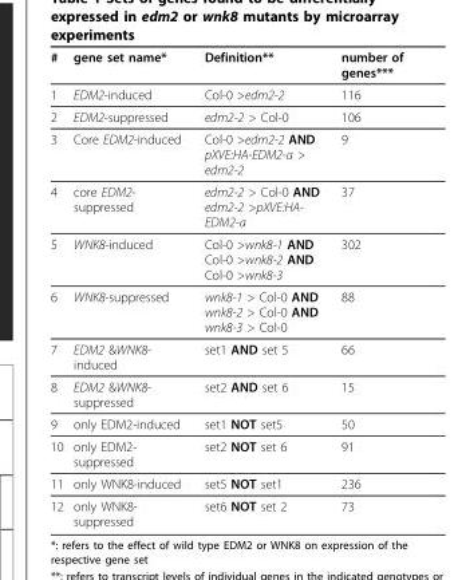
<table><thead><tr><td>#</td><td>gene set name*</td><td>Definition**</td><td>number of genes***</td></tr></thead><tbody><tr><td>1</td><td>EDM2-induced</td><td>Col-0 &gt;edm2-2</td><td>116</td></tr><tr><td>2</td><td>EDM2-suppressed</td><td>edm2-2 &gt; Col-0</td><td>106</td></tr><tr><td>3</td><td>Core EDM2-induced</td><td>Col-0 &gt;edm2-2 AND pXVE:HA-EDM2-a &gt; edm2-2</td><td>9</td></tr><tr><td>4</td><td>core EDM2- suppressed</td><td>edm2-2 &gt; Col-0 AND edm2-2 &gt;pXVE:HA- EDM2-a</td><td>37</td></tr><tr><td>5</td><td>WNK8-induced</td><td>Col-0 &gt;wnk8-1 AND Col-0 &gt;wnk8-2 AND Col-0 &gt;wnk8-3</td><td>302</td></tr><tr><td>6</td><td>WNK8-suppressed</td><td>wnk8-1 &gt; Col-0 AND wnk8-2 &gt; Col-0 AND wnk8-3 &gt; Col-0</td><td>88</td></tr><tr><td>7</td><td>EDM2 &amp;WNK8- induced</td><td>set1 AND set 5</td><td>66</td></tr><tr><td>8</td><td>EDM2 &amp;WNK8- suppressed</td><td>set2 AND set 6</td><td>15</td></tr><tr><td>9</td><td>only EDM2-induced</td><td>set1 NOT set5</td><td>50</td></tr><tr><td>10</td><td>only EDM2- suppressed</td><td>set2 NOT set 6</td><td>91</td></tr><tr><td>11</td><td>only WNK8-induced</td><td>set5 NOT set1</td><td>236</td></tr><tr><td>12</td><td>only WNK8- suppressed</td><td>set6 NOT set 2</td><td>73</td></tr></tbody></table>